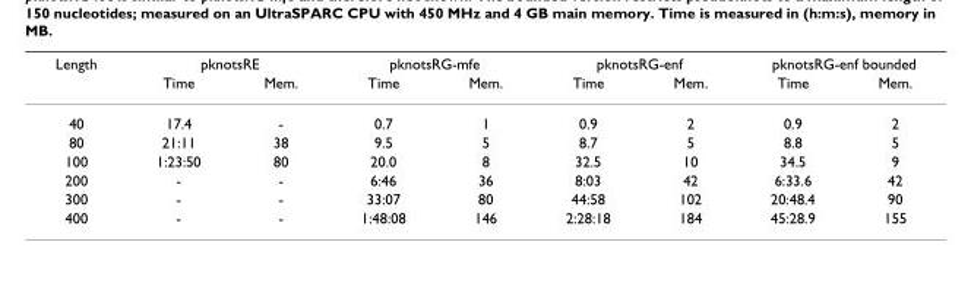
<table><thead><tr><td rowspan="2">Length</td><td colspan="2">pknotsRE</td><td colspan="2">pknotsRG-mfe</td><td colspan="2">pknotsRG-enf</td><td colspan="2">pknotsRG-enf bounded</td></tr><tr><td>Time</td><td>Mem.</td><td>Time</td><td>Mem.</td><td>Time</td><td>Mem.</td><td>Time</td><td>Mem.</td></tr></thead><tbody><tr><td>40</td><td>17.4</td><td>-</td><td>0.7</td><td>1</td><td>0.9</td><td>2</td><td>0.9</td><td>2</td></tr><tr><td>80</td><td>21:11</td><td>38</td><td>9.5</td><td>5</td><td>8.7</td><td>5</td><td>8.8</td><td>5</td></tr><tr><td>100</td><td>1:23:50</td><td>80</td><td>20.0</td><td>8</td><td>32.5</td><td>10</td><td>34.5</td><td>9</td></tr><tr><td>200</td><td>-</td><td>-</td><td>6:46</td><td>36</td><td>8:03</td><td>42</td><td>6:33.6</td><td>42</td></tr><tr><td>300</td><td>-</td><td>-</td><td>33:07</td><td>80</td><td>44:58</td><td>102</td><td>20:48.4</td><td>90</td></tr><tr><td>400</td><td>-</td><td>-</td><td>1:48:08</td><td>146</td><td>2:28:18</td><td>184</td><td>45:28.9</td><td>155</td></tr></tbody></table>